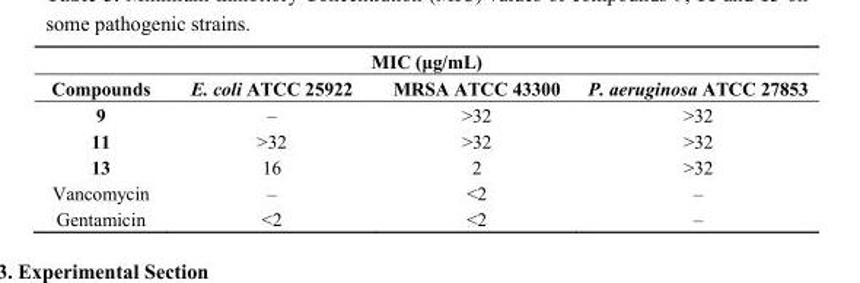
<table><thead><tr><td colspan="4">MIC (μg/mL)</td></tr><tr><td>Compounds</td><td>E. coli ATCC 25922</td><td>MRSA ATCC 43300</td><td>P. aeruginosa ATCC 27853</td></tr></thead><tbody><tr><td>9</td><td>–</td><td>&gt;32</td><td>&gt;32</td></tr><tr><td>11</td><td>&gt;32</td><td>&gt;32</td><td>&gt;32</td></tr><tr><td>13</td><td>16</td><td>2</td><td>&gt;32</td></tr><tr><td>Vancomycin</td><td>–</td><td>&lt;2</td><td>–</td></tr><tr><td>Gentamicin</td><td>&lt;2</td><td>&lt;2</td><td>–</td></tr></tbody></table>